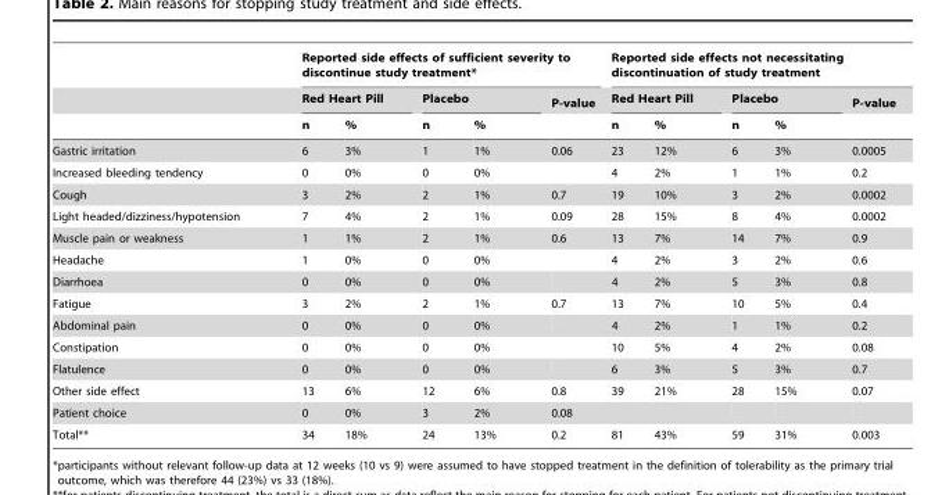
<table><thead><tr><td rowspan="3"></td><td colspan="5">Reported side effects of sufficient severity to discontinue study treatment*</td><td colspan="5">Reported side effects not necessitating discontinuation of study treatment</td></tr><tr><td colspan="2">Red Heart Pill</td><td colspan="2">Placebo</td><td rowspan="2">P-value</td><td colspan="2">Red Heart Pill</td><td colspan="2">Placebo</td><td rowspan="2">P-value</td></tr><tr><td>n</td><td>%</td><td>n</td><td>%</td><td>n</td><td>%</td><td>n</td><td>%</td></tr></thead><tbody><tr><td>Gastric irritation</td><td>6</td><td>3%</td><td>1</td><td>1%</td><td>0.06</td><td>23</td><td>12%</td><td>6</td><td>3%</td><td>0.0005</td></tr><tr><td>Increased bleeding tendency</td><td>0</td><td>0%</td><td>0</td><td>0%</td><td></td><td>4</td><td>2%</td><td>1</td><td>1%</td><td>0.2</td></tr><tr><td>Cough</td><td>3</td><td>2%</td><td>2</td><td>1%</td><td>0.7</td><td>19</td><td>10%</td><td>3</td><td>2%</td><td>0.0002</td></tr><tr><td>Light headed/dizziness/hypotension</td><td>7</td><td>4%</td><td>2</td><td>1%</td><td>0.09</td><td>28</td><td>15%</td><td>8</td><td>4%</td><td>0.0002</td></tr><tr><td>Muscle pain or weakness</td><td>1</td><td>1%</td><td>2</td><td>1%</td><td>0.6</td><td>13</td><td>7%</td><td>14</td><td>7%</td><td>0.9</td></tr><tr><td>Headache</td><td>1</td><td>0%</td><td>0</td><td>0%</td><td></td><td>4</td><td>2%</td><td>3</td><td>2%</td><td>0.6</td></tr><tr><td>Diarrhoea</td><td>0</td><td>0%</td><td>0</td><td>0%</td><td></td><td>4</td><td>2%</td><td>5</td><td>3%</td><td>0.8</td></tr><tr><td>Fatigue</td><td>3</td><td>2%</td><td>2</td><td>1%</td><td>0.7</td><td>13</td><td>7%</td><td>10</td><td>5%</td><td>0.4</td></tr><tr><td>Abdominal pain</td><td>0</td><td>0%</td><td>0</td><td>0%</td><td></td><td>4</td><td>2%</td><td>1</td><td>1%</td><td>0.2</td></tr><tr><td>Constipation</td><td>0</td><td>0%</td><td>0</td><td>0%</td><td></td><td>10</td><td>5%</td><td>4</td><td>2%</td><td>0.08</td></tr><tr><td>Flatulence</td><td>0</td><td>0%</td><td>0</td><td>0%</td><td></td><td>6</td><td>3%</td><td>5</td><td>3%</td><td>0.7</td></tr><tr><td>Other side effect</td><td>13</td><td>6%</td><td>12</td><td>6%</td><td>0.8</td><td>39</td><td>21%</td><td>28</td><td>15%</td><td>0.07</td></tr><tr><td>Patient choice</td><td>0</td><td>0%</td><td>3</td><td>2%</td><td>0.08</td><td></td><td></td><td></td><td></td><td></td></tr><tr><td>Total**</td><td>34</td><td>18%</td><td>24</td><td>13%</td><td>0.2</td><td>81</td><td>43%</td><td>59</td><td>31%</td><td>0.003</td></tr></tbody></table>